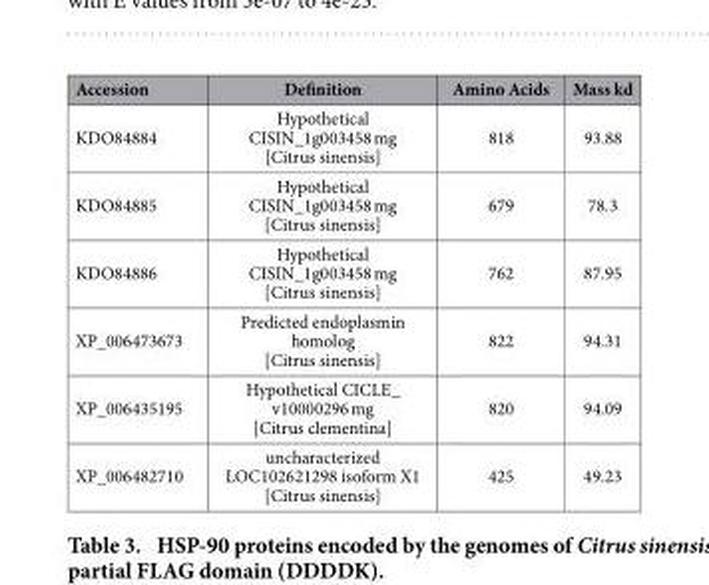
<table><thead><tr><td>Accession</td><td>Definition</td><td>Amino Acids</td><td>Mass kd</td></tr></thead><tbody><tr><td>KDO84884</td><td>Hypothetical CISIN_1g003458 mg [Citrus sinensis]</td><td>818</td><td>93.88</td></tr><tr><td>KDO84885</td><td>Hypothetical CISIN_1g003458 mg [Citrus sinensis]</td><td>679</td><td>78.3</td></tr><tr><td>KDO84886</td><td>Hypothetical CISIN_1g003458 mg [Citrus sinensis]</td><td>762</td><td>87.95</td></tr><tr><td>XP_006473673</td><td>Predicted endoplasmin homolog [Citrus sinensis]</td><td>822</td><td>94.31</td></tr><tr><td>XP_006435195</td><td>Hypothetical CICLE_ v10000296 mg [Citrus clementina]</td><td>820</td><td>94.09</td></tr><tr><td>XP_006482710</td><td>uncharacterized LOC102621298 isoform X1 [Citrus sinensis]</td><td>425</td><td>49.23</td></tr></tbody></table>